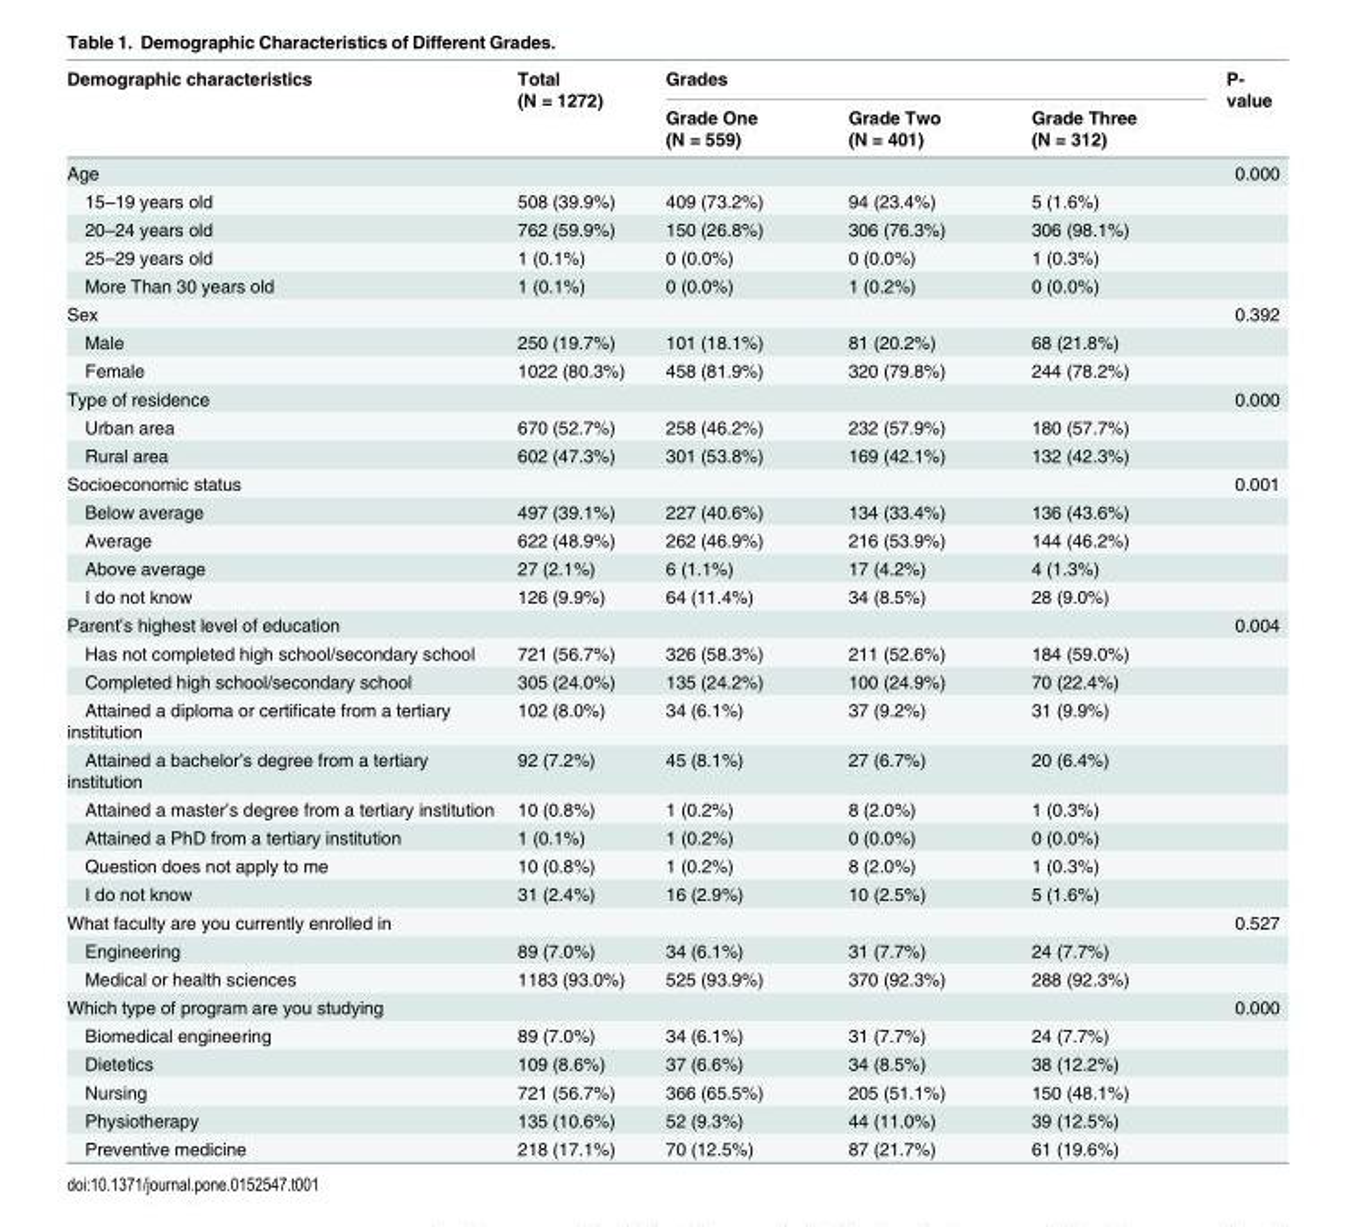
<table><thead><tr><td rowspan="2">Demographic characteristics</td><td rowspan="2">Total (N = 1272)</td><td colspan="3">Grades</td><td rowspan="2">P- value</td></tr><tr><td>Grade One (N = 559)</td><td>Grade Two (N = 401)</td><td>Grade Three (N = 312)</td></tr></thead><tbody><tr><td>Age</td><td></td><td></td><td></td><td></td><td>0.000</td></tr><tr><td>15–19 years old</td><td>508 (39.9%)</td><td>409 (73.2%)</td><td>94 (23.4%)</td><td>5 (1.6%)</td><td></td></tr><tr><td>20–24 years old</td><td>762 (59.9%)</td><td>150 (26.8%)</td><td>306 (76.3%)</td><td>306 (98.1%)</td><td></td></tr><tr><td>25–29 years old</td><td>1 (0.1%)</td><td>0 (0.0%)</td><td>0 (0.0%)</td><td>1 (0.3%)</td><td></td></tr><tr><td>More Than 30 years old</td><td>1 (0.1%)</td><td>0 (0.0%)</td><td>1 (0.2%)</td><td>0 (0.0%)</td><td></td></tr><tr><td>Sex</td><td></td><td></td><td></td><td></td><td>0.392</td></tr><tr><td>Male</td><td>250 (19.7%)</td><td>101 (18.1%)</td><td>81 (20.2%)</td><td>68 (21.8%)</td><td></td></tr><tr><td>Female</td><td>1022 (80.3%)</td><td>458 (81.9%)</td><td>320 (79.8%)</td><td>244 (78.2%)</td><td></td></tr><tr><td>Type of residence</td><td></td><td></td><td></td><td></td><td>0.000</td></tr><tr><td>Urban area</td><td>670 (52.7%)</td><td>258 (46.2%)</td><td>232 (57.9%)</td><td>180 (57.7%)</td><td></td></tr><tr><td>Rural area</td><td>602 (47.3%)</td><td>301 (53.8%)</td><td>169 (42.1%)</td><td>132 (42.3%)</td><td></td></tr><tr><td>Socioeconomic status</td><td></td><td></td><td></td><td></td><td>0.001</td></tr><tr><td>Below average</td><td>497 (39.1%)</td><td>227 (40.6%)</td><td>134 (33.4%)</td><td>136 (43.6%)</td><td></td></tr><tr><td>Average</td><td>622 (48.9%)</td><td>262 (46.9%)</td><td>216 (53.9%)</td><td>144 (46.2%)</td><td></td></tr><tr><td>Above average</td><td>27 (2.1%)</td><td>6 (1.1%)</td><td>17 (4.2%)</td><td>4 (1.3%)</td><td></td></tr><tr><td>I do not know</td><td>126 (9.9%)</td><td>64 (11.4%)</td><td>34 (8.5%)</td><td>28 (9.0%)</td><td></td></tr><tr><td>Parent’s highest level of education</td><td></td><td></td><td></td><td></td><td>0.004</td></tr><tr><td>Has not completed high school/secondary school</td><td>721 (56.7%)</td><td>326 (58.3%)</td><td>211 (52.6%)</td><td>184 (59.0%)</td><td></td></tr><tr><td>Completed high school/secondary school</td><td>305 (24.0%)</td><td>135 (24.2%)</td><td>100 (24.9%)</td><td>70 (22.4%)</td><td></td></tr><tr><td>Attained a diploma or certificate from a tertiary institution</td><td>102 (8.0%)</td><td>34 (6.1%)</td><td>37 (9.2%)</td><td>31 (9.9%)</td><td></td></tr><tr><td>Attained a bachelor’s degree from a tertiary institution</td><td>92 (7.2%)</td><td>45 (8.1%)</td><td>27 (6.7%)</td><td>20 (6.4%)</td><td></td></tr><tr><td>Attained a master’s degree from a tertiary institution</td><td>10 (0.8%)</td><td>1 (0.2%)</td><td>8 (2.0%)</td><td>1 (0.3%)</td><td></td></tr><tr><td>Attained a PhD from a tertiary institution</td><td>1 (0.1%)</td><td>1 (0.2%)</td><td>0 (0.0%)</td><td>0 (0.0%)</td><td></td></tr><tr><td>Question does not apply to me</td><td>10 (0.8%)</td><td>1 (0.2%)</td><td>8 (2.0%)</td><td>1 (0.3%)</td><td></td></tr><tr><td>I do not know</td><td>31 (2.4%)</td><td>16 (2.9%)</td><td>10 (2.5%)</td><td>5 (1.6%)</td><td></td></tr><tr><td>What faculty are you currently enrolled in</td><td></td><td></td><td></td><td></td><td>0.527</td></tr><tr><td>Engineering</td><td>89 (7.0%)</td><td>34 (6.1%)</td><td>31 (7.7%)</td><td>24 (7.7%)</td><td></td></tr><tr><td>Medical or health sciences</td><td>1183 (93.0%)</td><td>525 (93.9%)</td><td>370 (92.3%)</td><td>288 (92.3%)</td><td></td></tr><tr><td>Which type of program are you studying</td><td></td><td></td><td></td><td></td><td>0.000</td></tr><tr><td>Biomedical engineering</td><td>89 (7.0%)</td><td>34 (6.1%)</td><td>31 (7.7%)</td><td>24 (7.7%)</td><td></td></tr><tr><td>Dietetics</td><td>109 (8.6%)</td><td>37 (6.6%)</td><td>34 (8.5%)</td><td>38 (12.2%)</td><td></td></tr><tr><td>Nursing</td><td>721 (56.7%)</td><td>366 (65.5%)</td><td>205 (51.1%)</td><td>150 (48.1%)</td><td></td></tr><tr><td>Physiotherapy</td><td>135 (10.6%)</td><td>52 (9.3%)</td><td>44 (11.0%)</td><td>39 (12.5%)</td><td></td></tr><tr><td>Preventive medicine</td><td>218 (17.1%)</td><td>70 (12.5%)</td><td>87 (21.7%)</td><td>61 (19.6%)</td><td></td></tr></tbody></table>